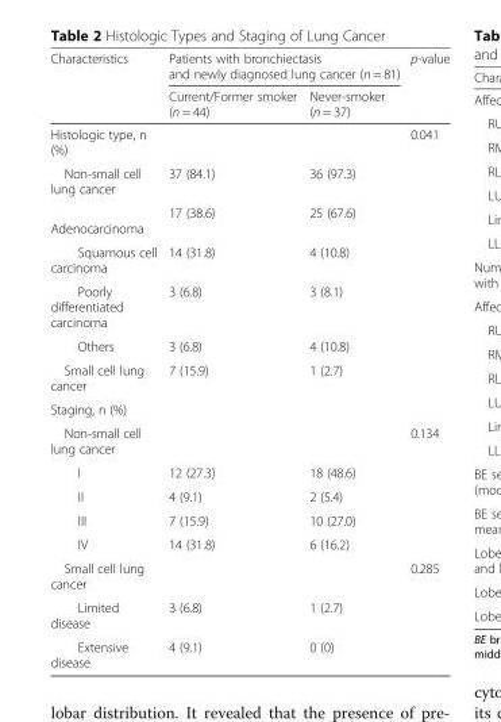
<table><thead><tr><td rowspan="2">Characteristics</td><td colspan="2">Patients with bronchiectasis and newly diagnosed lung cancer (n = 81)</td><td rowspan="2">p-value</td></tr><tr><td>Current/Former smoker (n = 44)</td><td>Never-smoker (n = 37)</td></tr></thead><tbody><tr><td>Histologic type, n (%)</td><td></td><td></td><td>0.041</td></tr><tr><td>Non-small cell lung cancer</td><td>37 (84.1)</td><td>36 (97.3)</td><td></td></tr><tr><td>Adenocarcinoma</td><td>17 (38.6)</td><td>25 (67.6)</td><td></td></tr><tr><td>Squamous cell carcinoma</td><td>14 (31.8)</td><td>4 (10.8)</td><td></td></tr><tr><td>Poorly differentiated carcinoma</td><td>3 (6.8)</td><td>3 (8.1)</td><td></td></tr><tr><td>Others</td><td>3 (6.8)</td><td>4 (10.8)</td><td></td></tr><tr><td>Small cell lung cancer</td><td>7 (15.9)</td><td>1 (2.7)</td><td></td></tr><tr><td colspan="4">Staging, n (%)</td></tr><tr><td>Non-small cell lung cancer</td><td></td><td></td><td>0.134</td></tr><tr><td>I</td><td>12 (27.3)</td><td>18 (48.6)</td><td></td></tr><tr><td>II</td><td>4 (9.1)</td><td>2 (5.4)</td><td></td></tr><tr><td>III</td><td>7 (15.9)</td><td>10 (27.0)</td><td></td></tr><tr><td>IV</td><td>14 (31.8)</td><td>6 (16.2)</td><td></td></tr><tr><td>Small cell lung cancer</td><td></td><td></td><td>0.285</td></tr><tr><td>Limited disease</td><td>3 (6.8)</td><td>1 (2.7)</td><td></td></tr><tr><td>Extensive disease</td><td>4 (9.1)</td><td>0 (0)</td><td></td></tr></tbody></table>